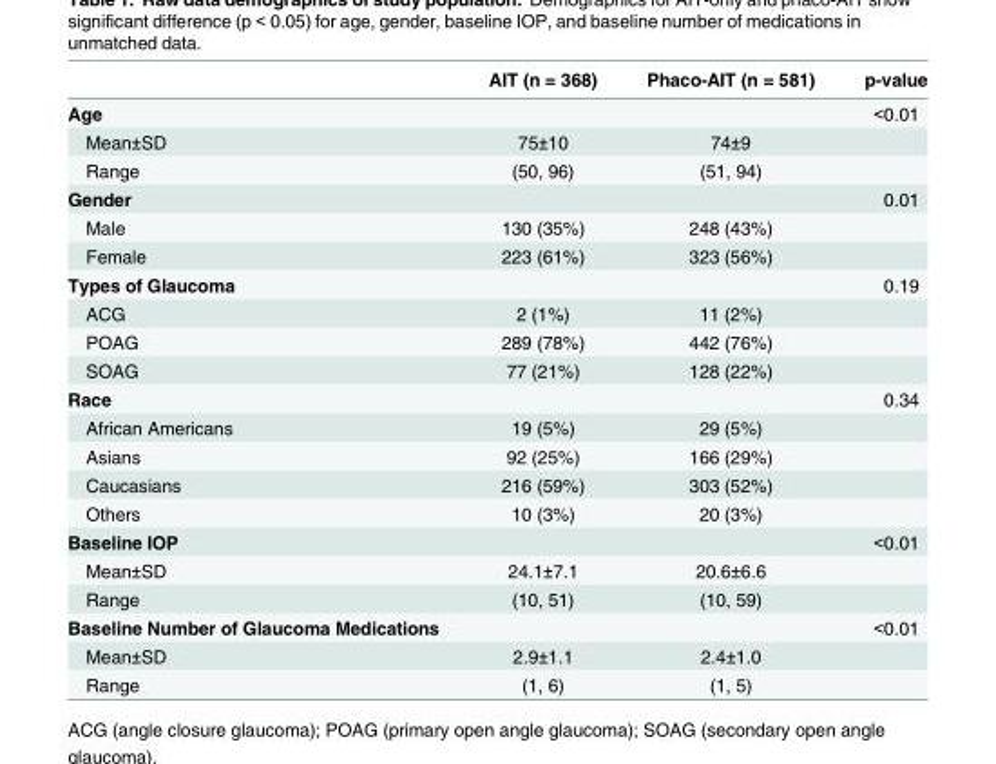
<table><thead><tr><td></td><td>AIT (n = 368)</td><td>Phaco-AIT (n = 581)</td><td>p-value</td></tr></thead><tbody><tr><td>Age</td><td></td><td></td><td>&lt;0.01</td></tr><tr><td>Mean±SD</td><td>75±10</td><td>74±9</td><td></td></tr><tr><td>Range</td><td>(50, 96)</td><td>(51, 94)</td><td></td></tr><tr><td>Gender</td><td></td><td></td><td>0.01</td></tr><tr><td>Male</td><td>130 (35%)</td><td>248 (43%)</td><td></td></tr><tr><td>Female</td><td>223 (61%)</td><td>323 (56%)</td><td></td></tr><tr><td>Types of Glaucoma</td><td></td><td></td><td>0.19</td></tr><tr><td>ACG</td><td>2 (1%)</td><td>11 (2%)</td><td></td></tr><tr><td>POAG</td><td>289 (78%)</td><td>442 (76%)</td><td></td></tr><tr><td>SOAG</td><td>77 (21%)</td><td>128 (22%)</td><td></td></tr><tr><td>Race</td><td></td><td></td><td>0.34</td></tr><tr><td>African Americans</td><td>19 (5%)</td><td>29 (5%)</td><td></td></tr><tr><td>Asians</td><td>92 (25%)</td><td>166 (29%)</td><td></td></tr><tr><td>Caucasians</td><td>216 (59%)</td><td>303 (52%)</td><td></td></tr><tr><td>Others</td><td>10 (3%)</td><td>20 (3%)</td><td></td></tr><tr><td>Baseline IOP</td><td></td><td></td><td>&lt;0.01</td></tr><tr><td>Mean±SD</td><td>24.1±7.1</td><td>20.6±6.6</td><td></td></tr><tr><td>Range</td><td>(10, 51)</td><td>(10, 59)</td><td></td></tr><tr><td>Baseline Number of Glaucoma Medications</td><td></td><td></td><td>&lt;0.01</td></tr><tr><td>Mean±SD</td><td>2.9±1.1</td><td>2.4±1.0</td><td></td></tr><tr><td>Range</td><td>(1, 6)</td><td>(1, 5)</td><td></td></tr></tbody></table>